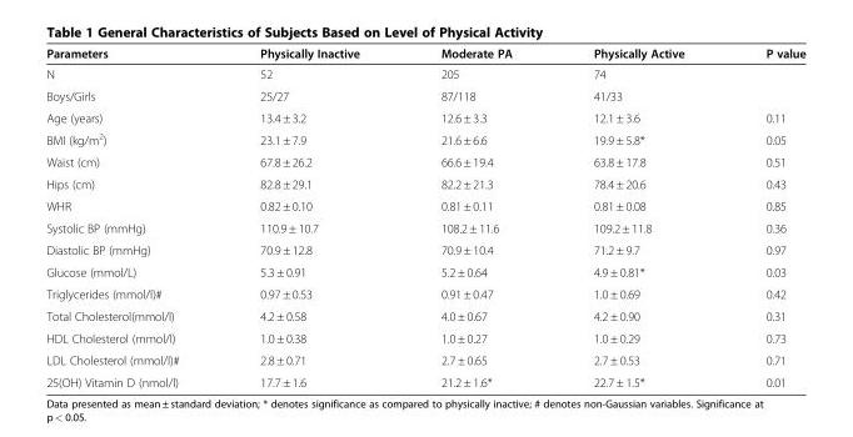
<table><thead><tr><td>Parameters</td><td>Physically Inactive</td><td>Moderate PA</td><td>Physically Active</td><td>P value</td></tr></thead><tbody><tr><td>N</td><td>52</td><td>205</td><td>74</td><td></td></tr><tr><td>Boys/Girls</td><td>25/27</td><td>87/118</td><td>41/33</td><td></td></tr><tr><td>Age (years)</td><td>13.4 ± 3.2</td><td>12.6 ± 3.3</td><td>12.1 ± 3.6</td><td>0.11</td></tr><tr><td>BMI (kg/m<sup>2</sup>)</td><td>23.1 ± 7.9</td><td>21.6 ± 6.6</td><td>19.9 ± 5.8*</td><td>0.05</td></tr><tr><td>Waist (cm)</td><td>67.8 ± 26.2</td><td>66.6 ± 19.4</td><td>63.8 ± 17.8</td><td>0.51</td></tr><tr><td>Hips (cm)</td><td>82.8 ± 29.1</td><td>82.2 ± 21.3</td><td>78.4 ± 20.6</td><td>0.43</td></tr><tr><td>WHR</td><td>0.82 ± 0.10</td><td>0.81 ± 0.11</td><td>0.81 ± 0.08</td><td>0.85</td></tr><tr><td>Systolic BP (mmHg)</td><td>110.9 ± 10.7</td><td>108.2 ± 11.6</td><td>109.2 ± 11.8</td><td>0.36</td></tr><tr><td>Diastolic BP (mmHg)</td><td>70.9 ± 12.8</td><td>70.9 ± 10.4</td><td>71.2 ± 9.7</td><td>0.97</td></tr><tr><td>Glucose (mmol/L)</td><td>5.3 ± 0.91</td><td>5.2 ± 0.64</td><td>4.9 ± 0.81*</td><td>0.03</td></tr><tr><td>Triglycerides (mmol/l)#</td><td>0.97 ± 0.53</td><td>0.91 ± 0.47</td><td>1.0 ± 0.69</td><td>0.42</td></tr><tr><td>Total Cholesterol(mmol/l)</td><td>4.2 ± 0.58</td><td>4.0 ± 0.67</td><td>4.2 ± 0.90</td><td>0.31</td></tr><tr><td>HDL Cholesterol (mmol/l)</td><td>1.0 ± 0.38</td><td>1.0 ± 0.27</td><td>1.0 ± 0.29</td><td>0.73</td></tr><tr><td>LDL Cholesterol (mmol/l)#</td><td>2.8 ± 0.71</td><td>2.7 ± 0.65</td><td>2.7 ± 0.53</td><td>0.71</td></tr><tr><td>25(OH) Vitamin D (nmol/l)</td><td>17.7 ± 1.6</td><td>21.2 ± 1.6*</td><td>22.7 ± 1.5*</td><td>0.01</td></tr></tbody></table>